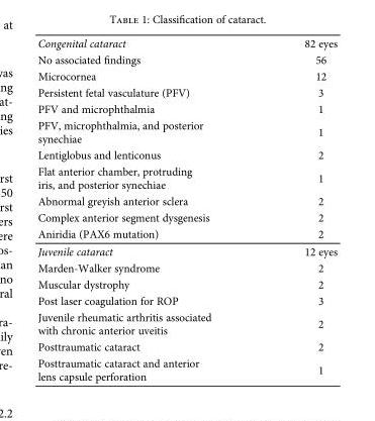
<table><tbody><tr><td>Congenital cataract</td><td>82 eyes</td></tr><tr><td>No associated findings</td><td>56</td></tr><tr><td>Microcornea</td><td>12</td></tr><tr><td>Persistent fetal vasculature (PFV)</td><td>3</td></tr><tr><td>PFV and microphthalmia</td><td>1</td></tr><tr><td>PFV, microphthalmia, and posterior synechiae</td><td>1</td></tr><tr><td>Lentiglobus and lenticonus</td><td>2</td></tr><tr><td>Flat anterior chamber, protruding iris, and posterior synechiae</td><td>1</td></tr><tr><td>Abnormal greyish anterior sclera</td><td>2</td></tr><tr><td>Complex anterior segment dysgenesis</td><td>2</td></tr><tr><td>Aniridia (PAX6 mutation)</td><td>2</td></tr><tr><td>Juvenile cataract</td><td>12 eyes</td></tr><tr><td>Marden-Walker syndrome</td><td>2</td></tr><tr><td>Muscular dystrophy</td><td>2</td></tr><tr><td>Post laser coagulation for ROP</td><td>3</td></tr><tr><td>Juvenile rheumatic arthritis associated with chronic anterior uveitis</td><td>2</td></tr><tr><td>Posttraumatic cataract</td><td>2</td></tr><tr><td>Posttraumatic cataract and anterior lens capsule perforation</td><td>1</td></tr></tbody></table>